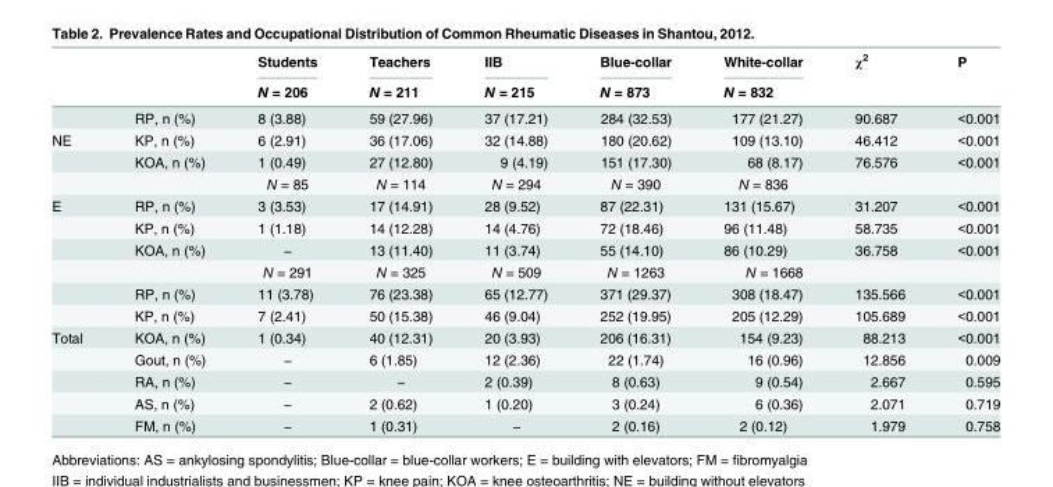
<table><thead><tr><td rowspan="2"></td><td rowspan="2"></td><td rowspan="2">Students N = 206</td><td rowspan="2">Teachers N = 211</td><td rowspan="2">IIB N = 215</td><td rowspan="2">Blue-collar N = 873</td><td rowspan="2">White-collar N = 832</td><td rowspan="2">χ<sup>2</sup></td><td rowspan="2">P</td></tr><tr></tr></thead><tbody><tr><td></td><td>RP, n (%)</td><td>8 (3.88)</td><td>59 (27.96)</td><td>37 (17.21)</td><td>284 (32.53)</td><td>177 (21.27)</td><td>90.687</td><td>&lt;0.001</td></tr><tr><td rowspan="3">NE</td><td>KP, n (%)</td><td>6 (2.91)</td><td>36 (17.06)</td><td>32 (14.88)</td><td>180 (20.62)</td><td>109 (13.10)</td><td>46.412</td><td>&lt;0.001</td></tr><tr><td>KOA, n (%)</td><td>1 (0.49)</td><td>27 (12.80)</td><td>9 (4.19)</td><td>151 (17.30)</td><td>68 (8.17)</td><td>76.576</td><td>&lt;0.001</td></tr><tr><td></td><td>N = 85</td><td>N = 114</td><td>N = 294</td><td>N = 390</td><td>N = 836</td><td></td><td></td></tr><tr><td rowspan="6">E</td><td>RP, n (%)</td><td>3 (3.53)</td><td>17 (14.91)</td><td>28 (9.52)</td><td>87 (22.31)</td><td>131 (15.67)</td><td>31.207</td><td>&lt;0.001</td></tr><tr><td>KP, n (%)</td><td>1 (1.18)</td><td>14 (12.28)</td><td>14 (4.76)</td><td>72 (18.46)</td><td>96 (11.48)</td><td>58.735</td><td>&lt;0.001</td></tr><tr><td>KOA, n (%)</td><td>−</td><td>13 (11.40)</td><td>11 (3.74)</td><td>55 (14.10)</td><td>86 (10.29)</td><td>36.758</td><td>&lt;0.001</td></tr><tr><td></td><td>N = 291</td><td>N = 325</td><td>N = 509</td><td>N = 1263</td><td>N = 1668</td><td></td><td></td></tr><tr><td>RP, n (%)</td><td>11 (3.78)</td><td>76 (23.38)</td><td>65 (12.77)</td><td>371 (29.37)</td><td>308 (18.47)</td><td>135.566</td><td>&lt;0.001</td></tr><tr><td>KP, n (%)</td><td>7 (2.41)</td><td>50 (15.38)</td><td>46 (9.04)</td><td>252 (19.95)</td><td>205 (12.29)</td><td>105.689</td><td>&lt;0.001</td></tr><tr><td rowspan="5">Total</td><td>KOA, n (%)</td><td>1 (0.34)</td><td>40 (12.31)</td><td>20 (3.93)</td><td>206 (16.31)</td><td>154 (9.23)</td><td>88.213</td><td>&lt;0.001</td></tr><tr><td>Gout, n (%)</td><td>−</td><td>6 (1.85)</td><td>12 (2.36)</td><td>22 (1.74)</td><td>16 (0.96)</td><td>12.856</td><td>0.009</td></tr><tr><td>RA, n (%)</td><td>−</td><td>−</td><td>2 (0.39)</td><td>8 (0.63)</td><td>9 (0.54)</td><td>2.667</td><td>0.595</td></tr><tr><td>AS, n (%)</td><td>−</td><td>2 (0.62)</td><td>1 (0.20)</td><td>3 (0.24)</td><td>6 (0.36)</td><td>2.071</td><td>0.719</td></tr><tr><td>FM, n (%)</td><td>−</td><td>1 (0.31)</td><td>−</td><td>2 (0.16)</td><td>2 (0.12)</td><td>1.979</td><td>0.758</td></tr></tbody></table>